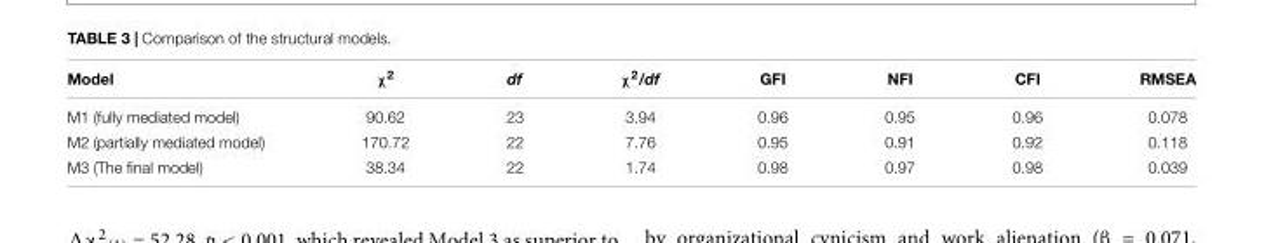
<table><thead><tr><td>Model</td><td>χ<sup>2</sup></td><td>df</td><td>χ<sup>2</sup>/df</td><td>GFI</td><td>NFI</td><td>CFI</td><td>RMSEA</td></tr></thead><tbody><tr><td>M1 (fully mediated model)</td><td>90.62</td><td>23</td><td>3.94</td><td>0.96</td><td>0.95</td><td>0.96</td><td>0.078</td></tr><tr><td>M2 (partially mediated model)</td><td>170.72</td><td>22</td><td>7.76</td><td>0.95</td><td>0.91</td><td>0.92</td><td>0.118</td></tr><tr><td>M3 (The final model)</td><td>38.34</td><td>22</td><td>1.74</td><td>0.98</td><td>0.97</td><td>0.98</td><td>0.039</td></tr></tbody></table>